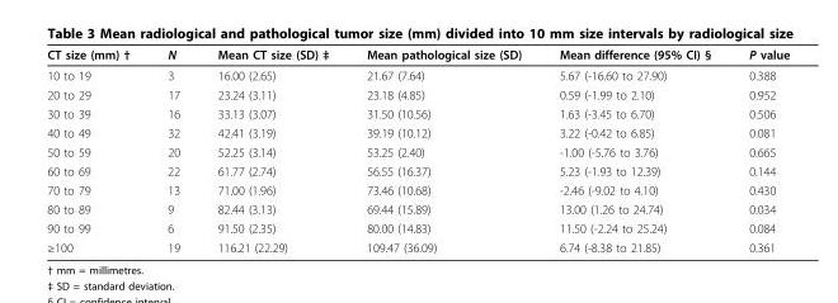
<table><thead><tr><td>CT size (mm) †</td><td>N</td><td>Mean CT size (SD) ‡</td><td>Mean pathological size (SD)</td><td>Mean difference (95% CI) §</td><td>P value</td></tr></thead><tbody><tr><td>10 to 19</td><td>3</td><td>16.00 (2.65)</td><td>21.67 (7.64)</td><td>5.67 (-16.60 to 27.90)</td><td>0.388</td></tr><tr><td>20 to 29</td><td>17</td><td>23.24 (3.11)</td><td>23.18 (4.85)</td><td>0.59 (-1.99 to 2.10)</td><td>0.952</td></tr><tr><td>30 to 39</td><td>16</td><td>33.13 (3.07)</td><td>31.50 (10.56)</td><td>1.63 (-3.45 to 6.70)</td><td>0.506</td></tr><tr><td>40 to 49</td><td>32</td><td>42.41 (3.19)</td><td>39.19 (10.12)</td><td>3.22 (-0.42 to 6.85)</td><td>0.081</td></tr><tr><td>50 to 59</td><td>20</td><td>52.25 (3.14)</td><td>53.25 (2.40)</td><td>-1.00 (-5.76 to 3.76)</td><td>0.665</td></tr><tr><td>60 to 69</td><td>22</td><td>61.77 (2.74)</td><td>56.55 (16.37)</td><td>5.23 (-1.93 to 12.39)</td><td>0.144</td></tr><tr><td>70 to 79</td><td>13</td><td>71.00 (1.96)</td><td>73.46 (10.68)</td><td>-2.46 (-9.02 to 4.10)</td><td>0.430</td></tr><tr><td>80 to 89</td><td>9</td><td>82.44 (3.13)</td><td>69.44 (15.89)</td><td>13.00 (1.26 to 24.74)</td><td>0.034</td></tr><tr><td>90 to 99</td><td>6</td><td>91.50 (2.35)</td><td>80.00 (14.83)</td><td>11.50 (-2.24 to 25.24)</td><td>0.084</td></tr><tr><td>≥100</td><td>19</td><td>116.21 (22.29)</td><td>109.47 (36.09)</td><td>6.74 (-8.38 to 21.85)</td><td>0.361</td></tr></tbody></table>